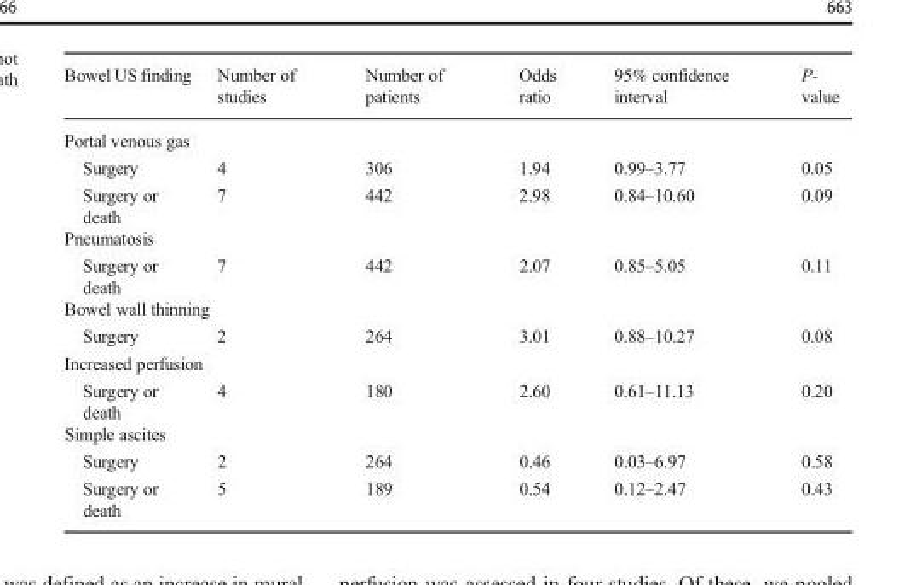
<table><thead><tr><td>Bowel US finding</td><td>Number of studies</td><td>Number of patients</td><td>Odds ratio</td><td>95% confidence interval</td><td>P- value</td></tr></thead><tbody><tr><td colspan="6">Portal venous gas</td></tr><tr><td>Surgery</td><td>4</td><td>306</td><td>1.94</td><td>0.99–3.77</td><td>0.05</td></tr><tr><td>Surgery or death</td><td>7</td><td>442</td><td>2.98</td><td>0.84–10.60</td><td>0.09</td></tr><tr><td colspan="6">Pneumatosis</td></tr><tr><td>Surgery or death</td><td>7</td><td>442</td><td>2.07</td><td>0.85–5.05</td><td>0.11</td></tr><tr><td colspan="6">Bowel wall thinning</td></tr><tr><td>Surgery</td><td>2</td><td>264</td><td>3.01</td><td>0.88–10.27</td><td>0.08</td></tr><tr><td colspan="6">Increased perfusion</td></tr><tr><td>Surgery or death</td><td>4</td><td>180</td><td>2.60</td><td>0.61–11.13</td><td>0.20</td></tr><tr><td colspan="6">Simple ascites</td></tr><tr><td>Surgery</td><td>2</td><td>264</td><td>0.46</td><td>0.03–6.97</td><td>0.58</td></tr><tr><td>Surgery or death</td><td>5</td><td>189</td><td>0.54</td><td>0.12–2.47</td><td>0.43</td></tr></tbody></table>